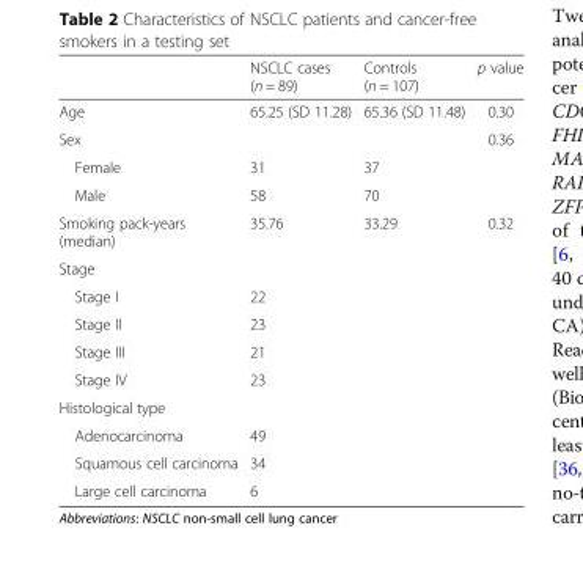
<table><thead><tr><td></td><td>NSCLC cases (n = 89)</td><td>Controls (n = 107)</td><td>p value</td></tr></thead><tbody><tr><td>Age</td><td>65.25 (SD 11.28)</td><td>65.36 (SD 11.48)</td><td>0.30</td></tr><tr><td>Sex</td><td></td><td></td><td>0.36</td></tr><tr><td>Female</td><td>31</td><td>37</td><td></td></tr><tr><td>Male</td><td>58</td><td>70</td><td></td></tr><tr><td>Smoking pack-years (median)</td><td>35.76</td><td>33.29</td><td>0.32</td></tr><tr><td colspan="4">Stage</td></tr><tr><td>Stage I</td><td>22</td><td></td><td></td></tr><tr><td>Stage II</td><td>23</td><td></td><td></td></tr><tr><td>Stage III</td><td>21</td><td></td><td></td></tr><tr><td>Stage IV</td><td>23</td><td></td><td></td></tr><tr><td colspan="4">Histological type</td></tr><tr><td>Adenocarcinoma</td><td>49</td><td></td><td></td></tr><tr><td>Squamous cell carcinoma</td><td>34</td><td></td><td></td></tr><tr><td>Large cell carcinoma</td><td>6</td><td></td><td></td></tr></tbody></table>